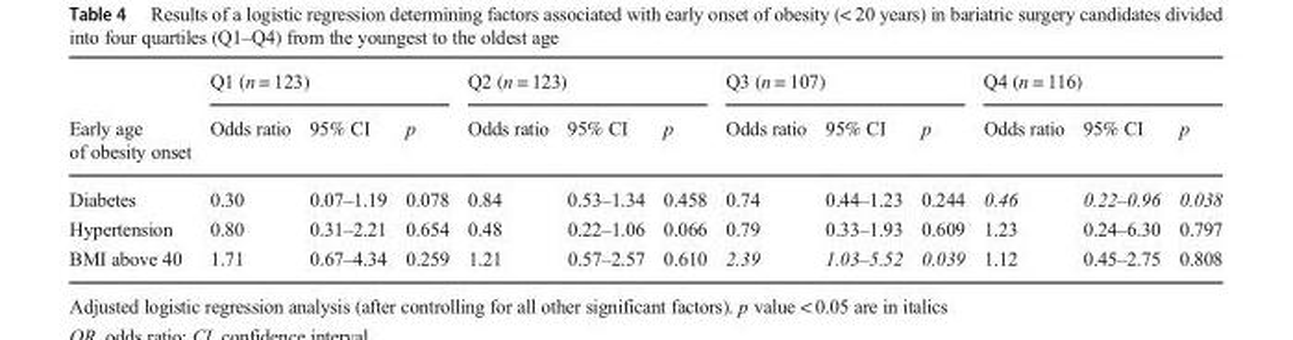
<table><thead><tr><td rowspan="2">Early age of obesity onset</td><td colspan="3">Q1 (n = 123)</td><td colspan="3">Q2 (n = 123)</td><td colspan="3">Q3 (n = 107)</td><td colspan="3">Q4 (n = 116)</td></tr><tr><td>Odds ratio</td><td>95% CI</td><td>p</td><td>Odds ratio</td><td>95% CI</td><td>p</td><td>Odds ratio</td><td>95% CI</td><td>p</td><td>Odds ratio</td><td>95% CI</td><td>p</td></tr></thead><tbody><tr><td>Diabetes</td><td>0.30</td><td>0.07–1.19</td><td>0.078</td><td>0.84</td><td>0.53–1.34</td><td>0.458</td><td>0.74</td><td>0.44–1.23</td><td>0.244</td><td>0.46</td><td>0.22–0.96</td><td>0.038</td></tr><tr><td>Hypertension</td><td>0.80</td><td>0.31–2.21</td><td>0.654</td><td>0.48</td><td>0.22–1.06</td><td>0.066</td><td>0.79</td><td>0.33–1.93</td><td>0.609</td><td>1.23</td><td>0.24–6.30</td><td>0.797</td></tr><tr><td>BMI above 40</td><td>1.71</td><td>0.67–4.34</td><td>0.259</td><td>1.21</td><td>0.57–2.57</td><td>0.610</td><td>2.39</td><td>1.03–5.52</td><td>0.039</td><td>1.12</td><td>0.45–2.75</td><td>0.808</td></tr></tbody></table>